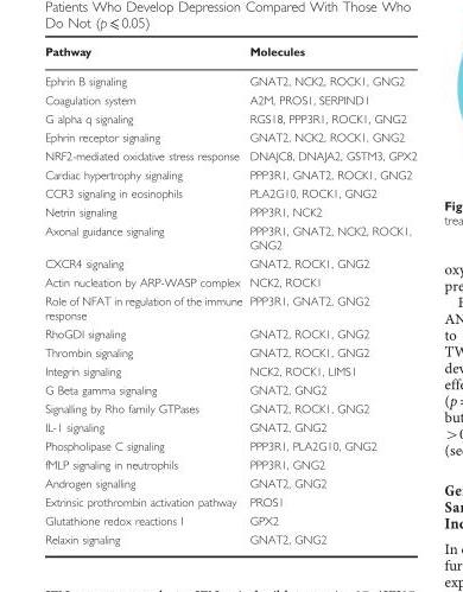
<table><thead><tr><td>Pathway</td><td>Molecules</td></tr></thead><tbody><tr><td>Ephrin B signaling</td><td>GNAT2, NCK2, ROCK1, GNG2</td></tr><tr><td>Coagulation system</td><td>A2M, PROS1, SERPIND1</td></tr><tr><td>G alpha q signaling</td><td>RGS18, PPP3R1, ROCK1, GNG2</td></tr><tr><td>Ephrin receptor signaling</td><td>GNAT2, NCK2, ROCK1, GNG2</td></tr><tr><td>NRF2-mediated oxidative stress response</td><td>DNAJC8, DNAJA2, GSTM3, GPX2</td></tr><tr><td>Cardiac hypertrophy signaling</td><td>PPP3R1, GNAT2, ROCK1, GNG2</td></tr><tr><td>CCR3 signaling in eosinophils</td><td>PLA2G10, ROCK1, GNG2</td></tr><tr><td>Netrin signaling</td><td>PPP3R1, NCK2</td></tr><tr><td>Axonal guidance signaling</td><td>PPP3R1, GNAT2, NCK2, ROCK1, GNG2</td></tr><tr><td>CXCR4 signaling</td><td>GNAT2, ROCK1, GNG2</td></tr><tr><td>Actin nucleation by ARP-WASP complex</td><td>NCK2, ROCK1</td></tr><tr><td>Role of NFAT in regulation of the immune response</td><td>PPP3R1, GNAT2, GNG2</td></tr><tr><td>RhoGDI signaling</td><td>GNAT2, ROCK1, GNG2</td></tr><tr><td>Thrombin signaling</td><td>GNAT2, ROCK1, GNG2</td></tr><tr><td>Integrin signaling</td><td>NCK2, ROCK1, LIMS1</td></tr><tr><td>G Beta gamma signaling</td><td>GNAT2, GNG2</td></tr><tr><td>Signalling by Rho family GTPases</td><td>GNAT2, ROCK1, GNG2</td></tr><tr><td>IL-1 signaling</td><td>GNAT2, GNG2</td></tr><tr><td>Phospholipase C signaling</td><td>PPP3R1, PLA2G10, GNG2</td></tr><tr><td>fMLP signaling in neutrophils</td><td>PPP3R1, GNG2</td></tr><tr><td>Androgen signalling</td><td>GNAT2, GNG2</td></tr><tr><td>Extrinsic prothrombin activation pathway</td><td>PROS1</td></tr><tr><td>Glutathione redox reactions I</td><td>GPX2</td></tr><tr><td>Relaxin signaling</td><td>GNAT2, GNG2</td></tr></tbody></table>